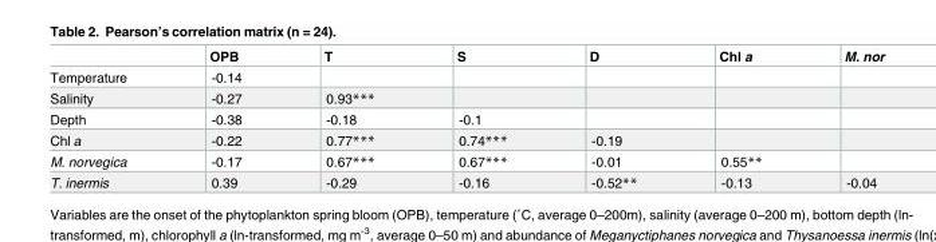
<table><thead><tr><td></td><td>OPB</td><td>T</td><td>S</td><td>D</td><td>Chl a</td><td>M. nor</td></tr></thead><tbody><tr><td>Temperature</td><td>-0.14</td><td></td><td></td><td></td><td></td><td></td></tr><tr><td>Salinity</td><td>-0.27</td><td>0.93***</td><td></td><td></td><td></td><td></td></tr><tr><td>Depth</td><td>-0.38</td><td>-0.18</td><td>-0.1</td><td></td><td></td><td></td></tr><tr><td>Chl a</td><td>-0.22</td><td>0.77***</td><td>0.74***</td><td>-0.19</td><td></td><td></td></tr><tr><td>M. norvegica</td><td>-0.17</td><td>0.67***</td><td>0.67***</td><td>-0.01</td><td>0.55**</td><td></td></tr><tr><td>T. inermis</td><td>0.39</td><td>-0.29</td><td>-0.16</td><td>-0.52**</td><td>-0.13</td><td>-0.04</td></tr></tbody></table>